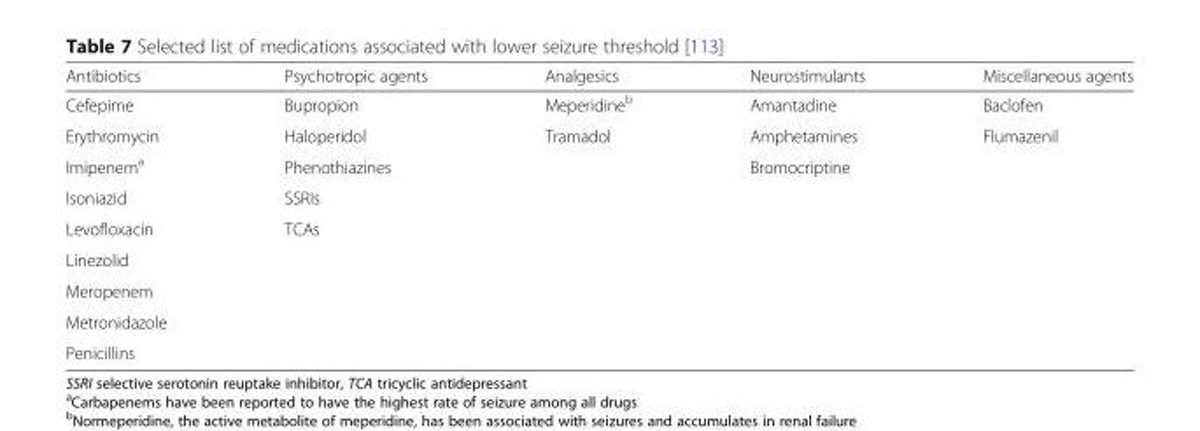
<table><thead><tr><td>Antibiotics</td><td>Psychotropic agents</td><td>Analgesics</td><td>Neurostimulants</td><td>Miscellaneous agents</td></tr></thead><tbody><tr><td>Cefepime</td><td>Bupropion</td><td>Meperidine<sup>b</sup></td><td>Amantadine</td><td>Baclofen</td></tr><tr><td>Erythromycin</td><td>Haloperidol</td><td>Tramadol</td><td>Amphetamines</td><td>Flumazenil</td></tr><tr><td>Imipenem<sup>a</sup></td><td>Phenothiazines</td><td></td><td>Bromocriptine</td><td></td></tr><tr><td>Isoniazid</td><td>SSRIs</td><td></td><td></td><td></td></tr><tr><td>Levofloxacin</td><td>TCAs</td><td></td><td></td><td></td></tr><tr><td colspan="5">Linezolid</td></tr><tr><td colspan="5">Meropenem</td></tr><tr><td colspan="5">Metronidazole</td></tr><tr><td>Penicillins</td><td></td><td></td><td></td><td></td></tr></tbody></table>